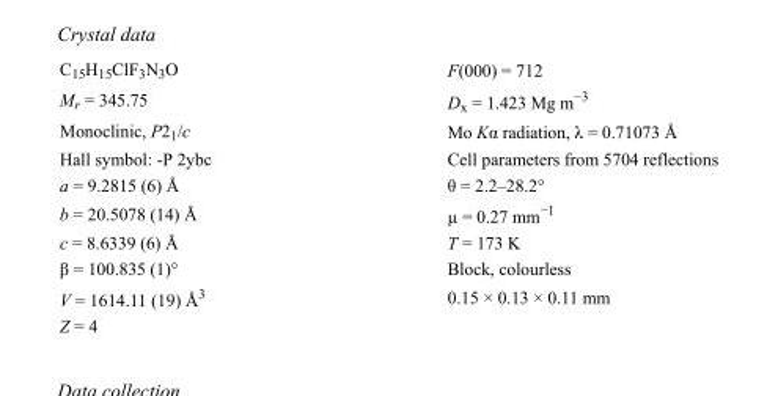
<table><tbody><tr><td>C<sub>15</sub>H<sub>15</sub>ClF<sub>3</sub>N<sub>3</sub>O</td><td>F(000) = 712</td></tr><tr><td>M<sub>r</sub> = 345.75</td><td>D<sub>x</sub> = 1.423 Mg m<sup>−3</sup></td></tr><tr><td>Monoclinic, P2<sub>1</sub>/c</td><td>Mo Kα radiation, λ = 0.71073 Å</td></tr><tr><td>Hall symbol: -P 2ybc</td><td>Cell parameters from 5704 reflections</td></tr><tr><td>a = 9.2815 (6) Å</td><td>θ = 2.2–28.2°</td></tr><tr><td>b = 20.5078 (14) Å</td><td>µ = 0.27 mm<sup>−1</sup></td></tr><tr><td>c = 8.6339 (6) Å</td><td>T = 173 K</td></tr><tr><td>β = 100.835 (1)°</td><td>Block, colourless</td></tr><tr><td>V = 1614.11 (19) Å<sup>3</sup></td><td>0.15 × 0.13 × 0.11 mm</td></tr><tr><td>Z = 4</td><td></td></tr></tbody></table>